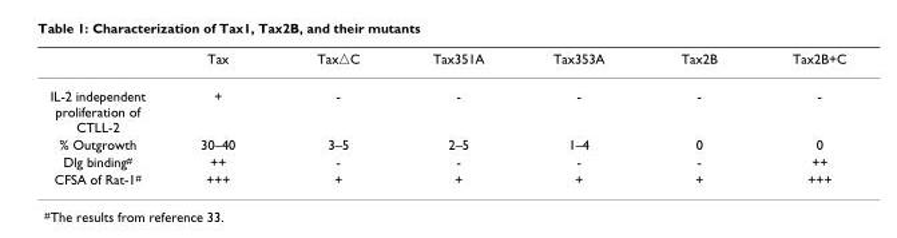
<table><thead><tr><td></td><td>Tax</td><td>Tax△C</td><td>Tax351A</td><td>Tax353A</td><td>Tax2B</td><td>Tax2B+C</td></tr></thead><tbody><tr><td>IL-2 independent proliferation of CTLL-2</td><td>+</td><td>-</td><td>-</td><td>-</td><td>-</td><td>-</td></tr><tr><td>% Outgrowth</td><td>30–40</td><td>3–5</td><td>2–5</td><td>1–4</td><td>0</td><td>0</td></tr><tr><td>Dlg binding<sup>#</sup></td><td>++</td><td>-</td><td>-</td><td>-</td><td>-</td><td>++</td></tr><tr><td>CFSA of Rat-1<sup>#</sup></td><td>+++</td><td>+</td><td>+</td><td>+</td><td>+</td><td>+++</td></tr></tbody></table>